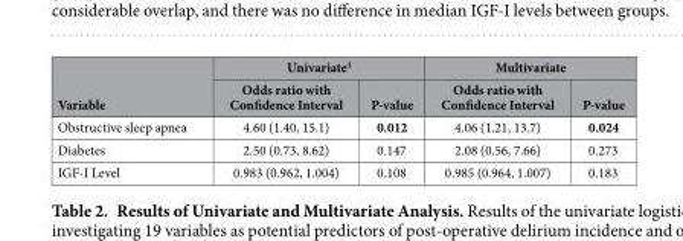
<table><thead><tr><td rowspan="2">Variable</td><td colspan="2">Univariate<sup>1</sup></td><td colspan="2">Multivariate</td></tr><tr><td>Odds ratio with Confidence Interval</td><td>P-value</td><td>Odds ratio with Confidence Interval</td><td>P-value</td></tr></thead><tbody><tr><td>Obstructive sleep apnea</td><td>4.60 (1.40, 15.1)</td><td>0.012</td><td>4.06 (1.21, 13.7)</td><td>0.024</td></tr><tr><td>Diabetes</td><td>2.50 (0.73, 8.62)</td><td>0.147</td><td>2.08 (0.56, 7.66)</td><td>0.273</td></tr><tr><td>IGF-I Level</td><td>0.983 (0.962, 1.004)</td><td>0.108</td><td>0.985 (0.964, 1.007)</td><td>0.183</td></tr></tbody></table>